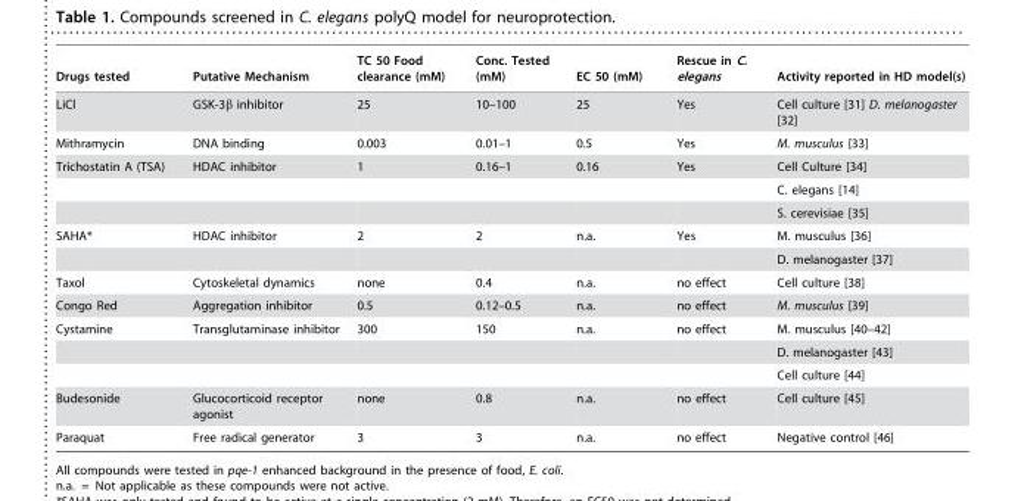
<table><thead><tr><td>Drugs tested</td><td>Putative Mechanism</td><td>TC 50 Food clearance (mM)</td><td>Conc. Tested (mM)</td><td>EC 50 (mM)</td><td>Rescue in C. elegans</td><td>Activity reported in HD model(s)</td></tr></thead><tbody><tr><td>LiCl</td><td>GSK-3β inhibitor</td><td>25</td><td>10–100</td><td>25</td><td>Yes</td><td>Cell culture [31] D. melanogaster [32]</td></tr><tr><td>Mithramycin</td><td>DNA binding</td><td>0.003</td><td>0.01–1</td><td>0.5</td><td>Yes</td><td>M. musculus [33]</td></tr><tr><td rowspan="3">Trichostatin A (TSA)</td><td>HDAC inhibitor</td><td>1</td><td>0.16–1</td><td>0.16</td><td>Yes</td><td>Cell Culture [34]</td></tr><tr><td></td><td></td><td></td><td></td><td></td><td>C. elegans [14]</td></tr><tr><td></td><td></td><td></td><td></td><td></td><td>S. cerevisiae [35]</td></tr><tr><td rowspan="2">SAHA*</td><td>HDAC inhibitor</td><td>2</td><td>2</td><td>n.a.</td><td>Yes</td><td>M. musculus [36]</td></tr><tr><td></td><td></td><td></td><td></td><td></td><td>D. melanogaster [37]</td></tr><tr><td>Taxol</td><td>Cytoskeletal dynamics</td><td>none</td><td>0.4</td><td>n.a.</td><td>no effect</td><td>Cell culture [38]</td></tr><tr><td>Congo Red</td><td>Aggregation inhibitor</td><td>0.5</td><td>0.12–0.5</td><td>n.a.</td><td>no effect</td><td>M. musculus [39]</td></tr><tr><td rowspan="3">Cystamine</td><td>Transglutaminase inhibitor</td><td>300</td><td>150</td><td>n.a.</td><td>no effect</td><td>M. musculus [40–42]</td></tr><tr><td></td><td></td><td></td><td></td><td></td><td>D. melanogaster [43]</td></tr><tr><td></td><td></td><td></td><td></td><td></td><td>Cell culture [44]</td></tr><tr><td>Budesonide</td><td>Glucocorticoid receptor agonist</td><td>none</td><td>0.8</td><td>n.a.</td><td>no effect</td><td>Cell culture [45]</td></tr><tr><td>Paraquat</td><td>Free radical generator</td><td>3</td><td>3</td><td>n.a.</td><td>no effect</td><td>Negative control [46]</td></tr></tbody></table>